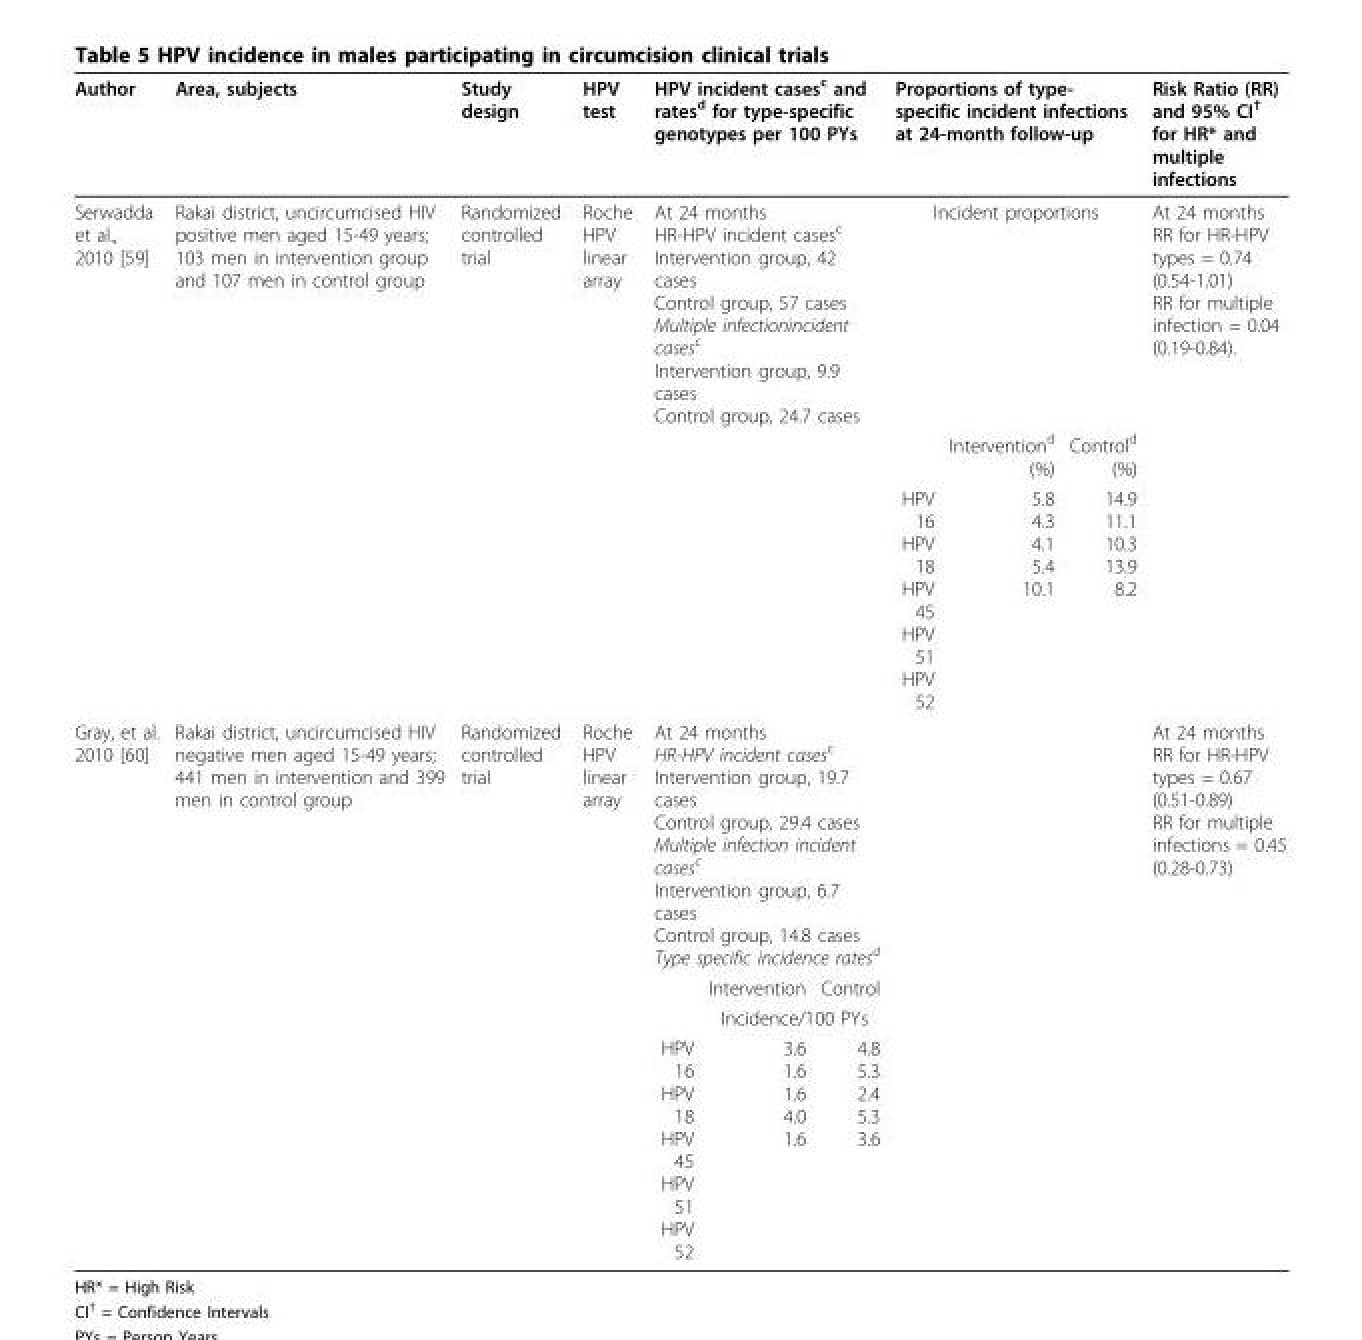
<table><thead><tr><td rowspan="3">Author Serwadda et al., 2010 [59]</td><td rowspan="3">Area, subjects Rakai district, uncircumcised HIV positive men aged 15-49 years; 103 men in intervention group and 107 men in control group</td><td rowspan="3">Study design Randomized controlled trial</td><td rowspan="3">HPV test Roche HPV linear array</td><td rowspan="2" colspan="3">HPV incident cases<sup>c</sup> and rates<sup>d</sup> for type-specific genotypes per 100 PYs At 24 months HR-HPV incident cases<sup>c</sup> Intervention group, 42 cases Control group, 57 cases Multiple infectionincident cases<sup>c</sup> Intervention group, 9.9 cases Control group, 24.7 cases</td><td rowspan="2" colspan="3">Proportions of type- specific incident infections at 24-month follow-up Incident proportions</td><td rowspan="3">Risk Ratio (RR) and 95% CI<sup>†</sup> for HR* and multiple infections At 24 months RR for HR-HPV types = 0.74 (0.54-1.01) RR for multiple infection = 0.04 (0.19-0.84).</td></tr><tr></tr><tr><td></td><td></td><td></td><td></td><td>Intervention<sup>d</sup> (%)</td><td>Control<sup>d</sup> (%)</td></tr></thead><tbody><tr><td></td><td></td><td></td><td></td><td></td><td></td><td></td><td>HPV 16 HPV 18 HPV 45 HPV 51 HPV 52</td><td>5.8 4.3 4.1 5.4 10.1</td><td>14.9 11.1 10.3 13.9 8.2</td><td></td></tr><tr><td rowspan="4">Gray, et al. 2010 [60]</td><td>Rakai district, uncircumcised HIV negative men aged 15-49 years; 441 men in intervention and 399 men in control group</td><td>Randomized controlled trial</td><td>Roche HPV linear array</td><td colspan="3">At 24 months HR-HPV incident cases<sup>c</sup> Intervention group, 19.7 cases Control group, 29.4 cases Multiple infection incident cases<sup>c</sup> Intervention group, 6.7 cases Control group, 14.8 cases Type specific incidence rates<sup>d</sup></td><td></td><td></td><td></td><td>At 24 months RR for HR-HPV types = 0.67 (0.51-0.89) RR for multiple infections = 0.45 (0.28-0.73)</td></tr><tr><td></td><td></td><td></td><td></td><td>Intervention</td><td>Control</td><td></td><td></td><td></td><td></td></tr><tr><td></td><td></td><td></td><td></td><td colspan="2">Incidence/100 PYs</td><td></td><td></td><td></td><td></td></tr><tr><td></td><td></td><td></td><td>HPV 16 HPV 18 HPV 45 HPV 51 HPV 52</td><td>3.6 1.6 1.6 4.0 1.6</td><td>4.8 5.3 2.4 5.3 3.6</td><td></td><td></td><td></td><td></td></tr></tbody></table>